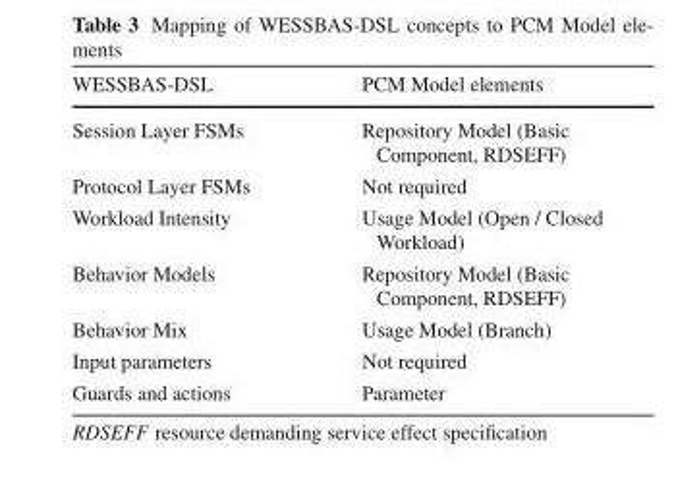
<table><thead><tr><td>WESSBAS-DSL</td><td>PCM Model elements</td></tr></thead><tbody><tr><td>Session Layer FSMs</td><td>Repository Model (Basic Component, RDSEFF)</td></tr><tr><td>Protocol Layer FSMs</td><td>Not required</td></tr><tr><td>Workload Intensity</td><td>Usage Model (Open / Closed Workload)</td></tr><tr><td>Behavior Models</td><td>Repository Model (Basic Component, RDSEFF)</td></tr><tr><td>Behavior Mix</td><td>Usage Model (Branch)</td></tr><tr><td>Input parameters</td><td>Not required</td></tr><tr><td>Guards and actions</td><td>Parameter</td></tr></tbody></table>